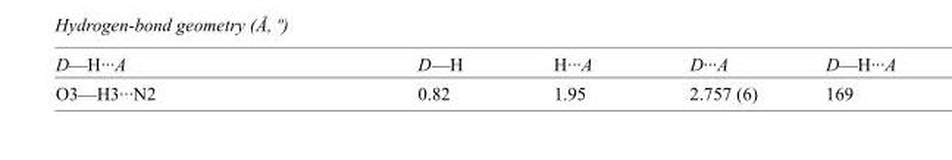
<table><tbody><tr><td>D—H···A</td><td>D—H</td><td>H···A</td><td>D···A</td><td>D—H···A</td></tr><tr><td>O3—H3···N2</td><td>0.82</td><td>1.95</td><td>2.757 (6)</td><td>169</td></tr></tbody></table>